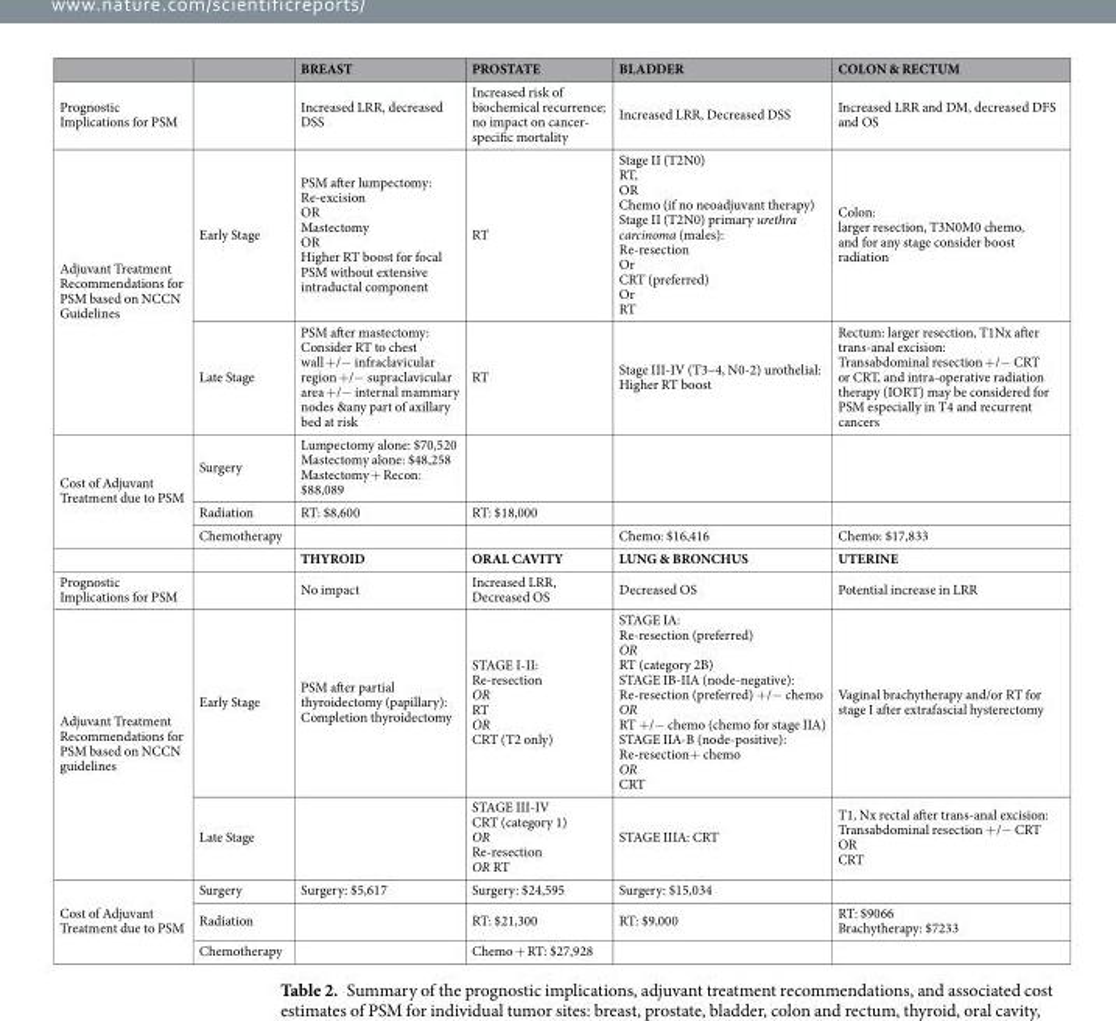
<table><thead><tr><td></td><td></td><td>BREAST</td><td>PROSTATE</td><td>BLADDER</td><td>COLON &amp; RECTUM</td></tr></thead><tbody><tr><td>Prognostic Implications for PSM</td><td></td><td>Increased LRR, decreased DSS</td><td>Increased risk of biochemical recurrence; no impact on cancer- specific mortality</td><td>Increased LRR, Decreased DSS</td><td>Increased LRR and DM, decreased DFS and OS</td></tr><tr><td rowspan="2">Adjuvant Treatment Recommendations for PSM based on NCCN Guidelines</td><td>Early Stage</td><td>PSM after lumpectomy: Re-excision OR Mastectomy OR Higher RT boost for focal PSM without extensive intraductal component</td><td>RT</td><td>Stage II (T2N0) RT, OR Chemo (if no neoadjuvant therapy) Stage II (T2N0) primary urethra carcinoma (males): Re-resection Or CRT (preferred) Or RT</td><td>Colon: larger resection, T3N0M0 chemo, and for any stage consider boost radiation</td></tr><tr><td>Late Stage</td><td>PSM after mastectomy: Consider RT to chest wall +/− infraclavicular region +/− supraclavicular area +/− internal mammary nodes &amp;any part of axillary bed at risk</td><td>RT</td><td>Stage III-IV (T3–4, N0-2) urothelial: Higher RT boost</td><td>Rectum: larger resection, T1Nx after trans-anal excision: Transabdominal resection +/− CRT or CRT, and intra-operative radiation therapy (IORT) may be considered for PSM especially in T4 and recurrent cancers</td></tr><tr><td rowspan="4">Cost of Adjuvant Treatment due to PSM</td><td>Surgery</td><td>Lumpectomy alone: $70,520 Mastectomy alone: $48,258 Mastectomy + Recon: $88,089</td><td></td><td></td><td></td></tr><tr><td>Radiation</td><td>RT: $8,600</td><td>RT: $18,000</td><td></td><td></td></tr><tr><td>Chemotherapy</td><td></td><td></td><td>Chemo: $16,416</td><td>Chemo: $17,833</td></tr><tr><td></td><td>THYROID</td><td>ORAL CAVITY</td><td>LUNG &amp; BRONCHUS</td><td>UTERINE</td></tr><tr><td>Prognostic Implications for PSM</td><td></td><td>No impact</td><td>Increased LRR, Decreased OS</td><td>Decreased OS</td><td>Potential increase in LRR</td></tr><tr><td rowspan="2">Adjuvant Treatment Recommendations for PSM based on NCCN guidelines</td><td>Early Stage</td><td>PSM after partial thyroidectomy (papillary): Completion thyroidectomy</td><td>STAGE I-II: Re-resection OR RT OR CRT (T2 only)</td><td>STAGE IA: Re-resection (preferred) OR RT (category 2B) STAGE IB-IIA (node-negative): Re-resection (preferred) +/− chemo OR RT +/− chemo (chemo for stage IIA) STAGE IIA-B (node-positive): Re-resection+ chemo OR CRT</td><td>Vaginal brachytherapy and/or RT for stage I after extrafascial hysterectomy</td></tr><tr><td>Late Stage</td><td></td><td>STAGE III-IV CRT (category 1) OR Re-resection OR RT</td><td>STAGE IIIA: CRT</td><td>T1, Nx rectal after trans-anal excision: Transabdominal resection +/− CRT OR CRT</td></tr><tr><td rowspan="3">Cost of Adjuvant Treatment due to PSM</td><td>Surgery</td><td>Surgery: $5,617</td><td>Surgery: $24,595</td><td>Surgery: $15,034</td><td></td></tr><tr><td>Radiation</td><td></td><td>RT: $21,300</td><td>RT: $9,000</td><td>RT: $9066 Brachytherapy: $7233</td></tr><tr><td>Chemotherapy</td><td></td><td>Chemo + RT: $27,928</td><td></td><td></td></tr></tbody></table>